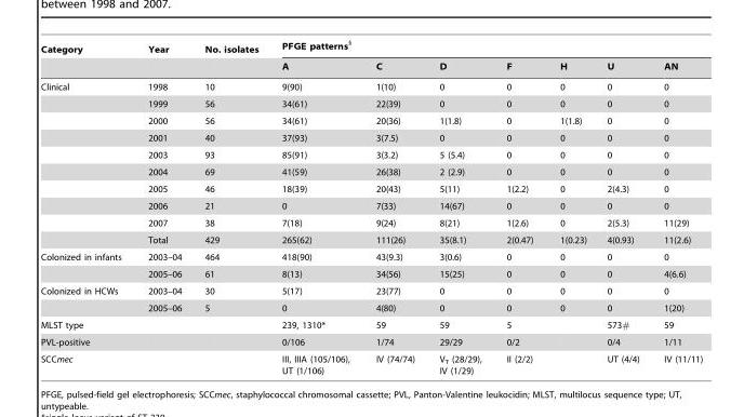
<table><thead><tr><td rowspan="2">Category</td><td rowspan="2">Year</td><td rowspan="2">No. isolates</td><td colspan="7">PFGE patterns§</td></tr><tr><td>A</td><td>C</td><td>D</td><td>F</td><td>H</td><td>U</td><td>AN</td></tr></thead><tbody><tr><td rowspan="10">Clinical</td><td>1998</td><td>10</td><td>9(90)</td><td>1(10)</td><td>0</td><td>0</td><td>0</td><td>0</td><td>0</td></tr><tr><td>1999</td><td>56</td><td>34(61)</td><td>22(39)</td><td>0</td><td>0</td><td>0</td><td>0</td><td>0</td></tr><tr><td>2000</td><td>56</td><td>34(61)</td><td>20(36)</td><td>1(1.8)</td><td>0</td><td>1(1.8)</td><td>0</td><td>0</td></tr><tr><td>2001</td><td>40</td><td>37(93)</td><td>3(7.5)</td><td>0</td><td>0</td><td>0</td><td>0</td><td>0</td></tr><tr><td>2003</td><td>93</td><td>85(91)</td><td>3(3.2)</td><td>5 (5.4)</td><td>0</td><td>0</td><td>0</td><td>0</td></tr><tr><td>2004</td><td>69</td><td>41(59)</td><td>26(38)</td><td>2 (2.9)</td><td>0</td><td>0</td><td>0</td><td>0</td></tr><tr><td>2005</td><td>46</td><td>18(39)</td><td>20(43)</td><td>5(11)</td><td>1(2.2)</td><td>0</td><td>2(4.3)</td><td>0</td></tr><tr><td>2006</td><td>21</td><td>0</td><td>7(33)</td><td>14(67)</td><td>0</td><td>0</td><td>0</td><td>0</td></tr><tr><td>2007</td><td>38</td><td>7(18)</td><td>9(24)</td><td>8(21)</td><td>1(2.6)</td><td>0</td><td>2(5.3)</td><td>11(29)</td></tr><tr><td>Total</td><td>429</td><td>265(62)</td><td>111(26)</td><td>35(8.1)</td><td>2(0.47)</td><td>1(0.23)</td><td>4(0.93)</td><td>11(2.6)</td></tr><tr><td rowspan="2">Colonized in infants</td><td>2003–04</td><td>464</td><td>418(90)</td><td>43(9.3)</td><td>3(0.6)</td><td>0</td><td>0</td><td>0</td><td>0</td></tr><tr><td>2005–06</td><td>61</td><td>8(13)</td><td>34(56)</td><td>15(25)</td><td>0</td><td>0</td><td>0</td><td>4(6.6)</td></tr><tr><td rowspan="2">Colonized in HCWs</td><td>2003–04</td><td>30</td><td>5(17)</td><td>23(77)</td><td>0</td><td>0</td><td>0</td><td>0</td><td>0</td></tr><tr><td>2005–06</td><td>5</td><td>0</td><td>4(80)</td><td>0</td><td>0</td><td>0</td><td>0</td><td>1(20)</td></tr><tr><td>MLST type</td><td></td><td></td><td>239, 1310*</td><td>59</td><td>59</td><td>5</td><td></td><td>573#</td><td>59</td></tr><tr><td>PVL-positive</td><td></td><td></td><td>0/106</td><td>1/74</td><td>29/29</td><td>0/2</td><td></td><td>0/4</td><td>1/11</td></tr><tr><td>SCCmec</td><td></td><td></td><td>III, IIIA (105/106), UT (1/106)</td><td>IV (74/74)</td><td>V<sub>T</sub> (28/29), IV (1/29)</td><td>II (2/2)</td><td></td><td>UT (4/4)</td><td>IV (11/11)</td></tr></tbody></table>